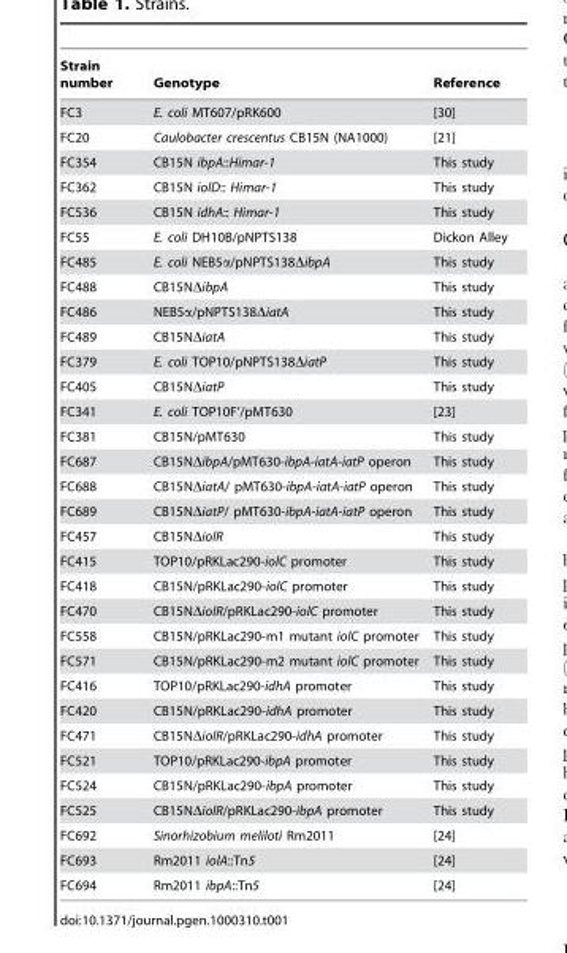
<table><thead><tr><td>Strain number</td><td>Genotype</td><td>Reference</td></tr></thead><tbody><tr><td>FC3</td><td>E. coli MT607/pRK600</td><td>[30]</td></tr><tr><td>FC20</td><td>Caulobacter crescentus CB15N (NA1000)</td><td>[21]</td></tr><tr><td>FC354</td><td>CB15N ibpA::Himar-1</td><td>This study</td></tr><tr><td>FC362</td><td>CB15N iolD:: Himar-1</td><td>This study</td></tr><tr><td>FC536</td><td>CB15N idhA:: Himar-1</td><td>This study</td></tr><tr><td>FC55</td><td>E. coli DH10B/pNPTS138</td><td>Dickon Alley</td></tr><tr><td>FC485</td><td>E. coli NEB5α/pNPTS138ΔibpA</td><td>This study</td></tr><tr><td>FC488</td><td>CB15NΔibpA</td><td>This study</td></tr><tr><td>FC486</td><td>NEB5α/pNPTS138ΔiatA</td><td>This study</td></tr><tr><td>FC489</td><td>CB15NΔiatA</td><td>This study</td></tr><tr><td>FC379</td><td>E. coli TOP10/pNPTS138ΔiatP</td><td>This study</td></tr><tr><td>FC405</td><td>CB15NΔiatP</td><td>This study</td></tr><tr><td>FC341</td><td>E. coli TOP10F’/pMT630</td><td>[23]</td></tr><tr><td>FC381</td><td>CB15N/pMT630</td><td>This study</td></tr><tr><td>FC687</td><td>CB15NΔibpA/pMT630-ibpA-iatA-iatP operon</td><td>This study</td></tr><tr><td>FC688</td><td>CB15NΔiatA/ pMT630-ibpA-iatA-iatP operon</td><td>This study</td></tr><tr><td>FC689</td><td>CB15NΔiatP/ pMT630-ibpA-iatA-iatP operon</td><td>This study</td></tr><tr><td>FC457</td><td>CB15NΔiolR</td><td>This study</td></tr><tr><td>FC415</td><td>TOP10/pRKLac290-iolC promoter</td><td>This study</td></tr><tr><td>FC418</td><td>CB15N/pRKLac290-iolC promoter</td><td>This study</td></tr><tr><td>FC470</td><td>CB15NΔiolR/pRKLac290-iolC promoter</td><td>This study</td></tr><tr><td>FC558</td><td>CB15N/pRKLac290-m1 mutant iolC promoter</td><td>This study</td></tr><tr><td>FC571</td><td>CB15N/pRKLac290-m2 mutant iolC promoter</td><td>This study</td></tr><tr><td>FC416</td><td>TOP10/pRKLac290-idhA promoter</td><td>This study</td></tr><tr><td>FC420</td><td>CB15N/pRKLac290-idhA promoter</td><td>This study</td></tr><tr><td>FC471</td><td>CB15NΔiolR/pRKLac290-idhA promoter</td><td>This study</td></tr><tr><td>FC521</td><td>TOP10/pRKLac290-ibpA promoter</td><td>This study</td></tr><tr><td>FC524</td><td>CB15N/pRKLac290-ibpA promoter</td><td>This study</td></tr><tr><td>FC525</td><td>CB15NΔiolR/pRKLac290-ibpA promoter</td><td>This study</td></tr><tr><td>FC692</td><td>Sinorhizobium meliloti Rm2011</td><td>[24]</td></tr><tr><td>FC693</td><td>Rm2011 iolA::Tn5</td><td>[24]</td></tr><tr><td>FC694</td><td>Rm2011 ibpA::Tn5</td><td>[24]</td></tr></tbody></table>